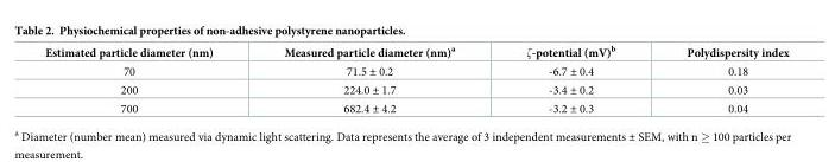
<table><thead><tr><td>Estimated particle diameter (nm)</td><td>Measured particle diameter (nm)<sup>a</sup></td><td>ζ-potential (mV)<sup>b</sup></td><td>Polydispersity index</td></tr></thead><tbody><tr><td>70</td><td>71.5 ± 0.2</td><td>-6.7 ± 0.4</td><td>0.18</td></tr><tr><td>200</td><td>224.0 ± 1.7</td><td>-3.4 ± 0.2</td><td>0.03</td></tr><tr><td>700</td><td>682.4 ± 4.2</td><td>-3.2 ± 0.3</td><td>0.04</td></tr></tbody></table>